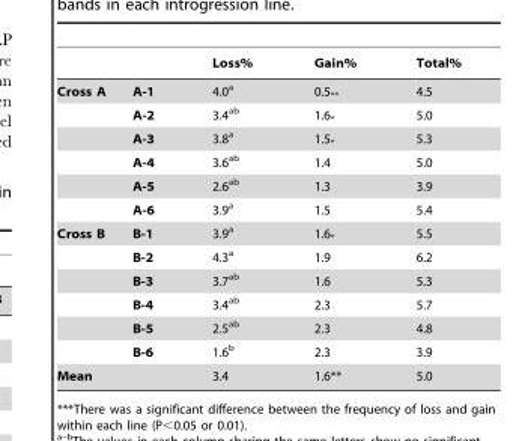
<table><thead><tr><td></td><td></td><td>Loss%</td><td>Gain%</td><td>Total%</td></tr></thead><tbody><tr><td rowspan="6">Cross A</td><td>A-1</td><td>4.0<sup>a</sup></td><td>0.5<sub>**</sub></td><td>4.5</td></tr><tr><td>A-2</td><td>3.4<sup>ab</sup></td><td>1.6<sub>*</sub></td><td>5.0</td></tr><tr><td>A-3</td><td>3.8<sup>a</sup></td><td>1.5<sub>*</sub></td><td>5.3</td></tr><tr><td>A-4</td><td>3.6<sup>ab</sup></td><td>1.4</td><td>5.0</td></tr><tr><td>A-5</td><td>2.6<sup>ab</sup></td><td>1.3</td><td>3.9</td></tr><tr><td>A-6</td><td>3.9<sup>a</sup></td><td>1.5</td><td>5.4</td></tr><tr><td rowspan="6">Cross B</td><td>B-1</td><td>3.9<sup>a</sup></td><td>1.6<sub>*</sub></td><td>5.5</td></tr><tr><td>B-2</td><td>4.3<sup>a</sup></td><td>1.9</td><td>6.2</td></tr><tr><td>B-3</td><td>3.7<sup>ab</sup></td><td>1.6</td><td>5.3</td></tr><tr><td>B-4</td><td>3.4<sup>ab</sup></td><td>2.3</td><td>5.7</td></tr><tr><td>B-5</td><td>2.5<sup>ab</sup></td><td>2.3</td><td>4.8</td></tr><tr><td>B-6</td><td>1.6<sup>b</sup></td><td>2.3</td><td>3.9</td></tr><tr><td>Mean</td><td></td><td>3.4</td><td>1.6**</td><td>5.0</td></tr></tbody></table>